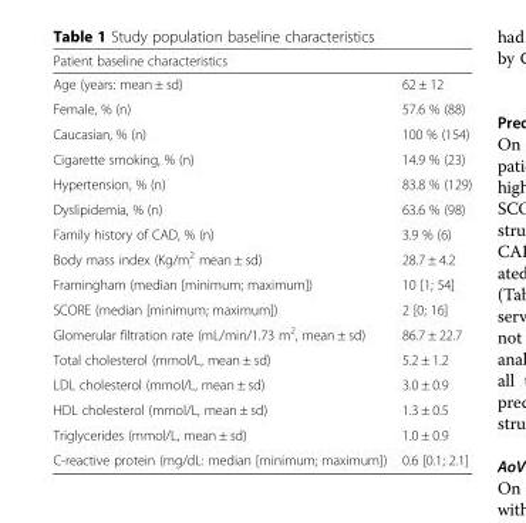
<table><thead><tr><td colspan="2">Patient baseline characteristics</td></tr><tr><td>Age (years: mean ± sd)</td><td>62 ± 12</td></tr></thead><tbody><tr><td>Female, % (n)</td><td>57.6 % (88)</td></tr><tr><td>Caucasian, % (n)</td><td>100 % (154)</td></tr><tr><td>Cigarette smoking, % (n)</td><td>14.9 % (23)</td></tr><tr><td>Hypertension, % (n)</td><td>83.8 % (129)</td></tr><tr><td>Dyslipidemia, % (n)</td><td>63.6 % (98)</td></tr><tr><td>Family history of CAD, % (n)</td><td>3.9 % (6)</td></tr><tr><td>Body mass index (Kg/m<sup>2</sup> <sub>,</sub> mean ± sd)</td><td>28.7 ± 4.2</td></tr><tr><td>Framingham (median [minimum; maximum])</td><td>10 [1; 54]</td></tr><tr><td>SCORE (median [minimum; maximum])</td><td>2 [0; 16]</td></tr><tr><td>Glomerular filtration rate (mL/min/1.73 m<sup>2</sup>, mean ± sd)</td><td>86.7 ± 22.7</td></tr><tr><td>Total cholesterol (mmol/L, mean ± sd)</td><td>5.2 ± 1.2</td></tr><tr><td>LDL cholesterol (mmol/L, mean ± sd)</td><td>3.0 ± 0.9</td></tr><tr><td>HDL cholesterol (mmol/L, mean ± sd)</td><td>1.3 ± 0.5</td></tr><tr><td>Triglycerides (mmol/L, mean ± sd)</td><td>1.0 ± 0.9</td></tr><tr><td>C-reactive protein (mg/dL: median [minimum; maximum])</td><td>0.6 [0.1; 2.1]</td></tr></tbody></table>